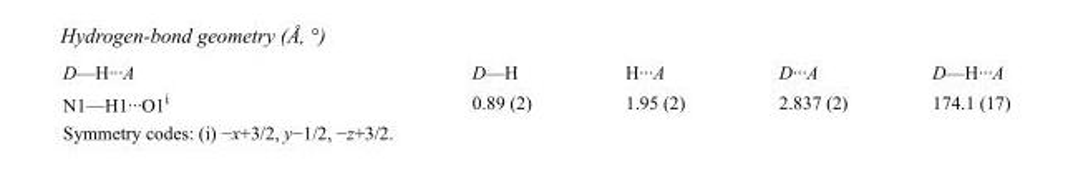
<table><tbody><tr><td>D—H···A</td><td>D—H</td><td>H···A</td><td>D···A</td><td>D—H···A</td></tr><tr><td>N1—H1···O1<sup>i</sup></td><td>0.89 (2)</td><td>1.95 (2)</td><td>2.837 (2)</td><td>174.1 (17)</td></tr></tbody></table>